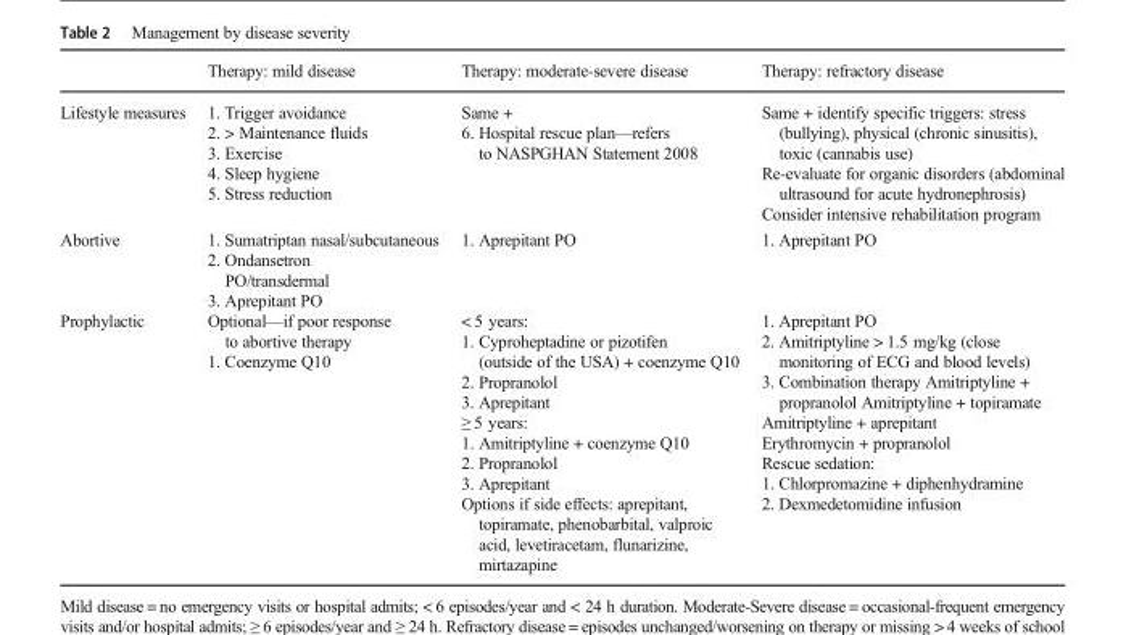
<table><thead><tr><td></td><td>Therapy: mild disease</td><td>Therapy: moderate-severe disease</td><td>Therapy: refractory disease</td></tr></thead><tbody><tr><td>Lifestyle measures</td><td>1. Trigger avoidance 2. &gt; Maintenance fluids 3. Exercise 4. Sleep hygiene 5. Stress reduction</td><td>Same + 6. Hospital rescue plan—refers to NASPGHAN Statement 2008</td><td>Same + identify specific triggers: stress (bullying), physical (chronic sinusitis), toxic (cannabis use) Re-evaluate for organic disorders (abdominal ultrasound for acute hydronephrosis) Consider intensive rehabilitation program</td></tr><tr><td>Abortive</td><td>1. Sumatriptan nasal/subcutaneous 2. Ondansetron PO/transdermal 3. Aprepitant PO</td><td>1. Aprepitant PO</td><td>1. Aprepitant PO</td></tr><tr><td>Prophylactic</td><td>Optional—if poor response to abortive therapy 1. Coenzyme Q10</td><td>&lt; 5 years: 1. Cyproheptadine or pizotifen (outside of the USA) + coenzyme Q10 2. Propranolol 3. Aprepitant ≥ 5 years: 1. Amitriptyline + coenzyme Q10 2. Propranolol 3. Aprepitant Options if side effects: aprepitant, topiramate, phenobarbital, valproic acid, levetiracetam, flunarizine, mirtazapine</td><td>1. Aprepitant PO 2. Amitriptyline &gt; 1.5 mg/kg (close monitoring of ECG and blood levels) 3. Combination therapy Amitriptyline + propranolol Amitriptyline + topiramate Amitriptyline + aprepitant Erythromycin + propranolol Rescue sedation: 1. Chlorpromazine + diphenhydramine 2. Dexmedetomidine infusion</td></tr></tbody></table>